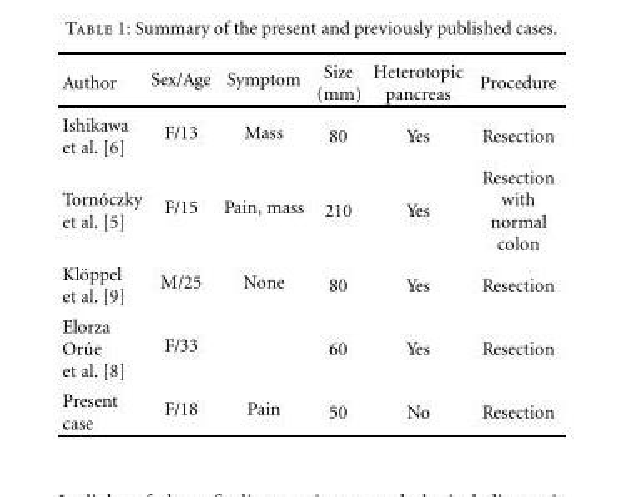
<table><thead><tr><td>Author</td><td>Sex/Age</td><td>Symptom</td><td>Size (mm)</td><td>Heterotopic pancreas</td><td>Procedure</td></tr></thead><tbody><tr><td>Ishikawa et al. [6]</td><td>F/13</td><td>Mass</td><td>80</td><td>Yes</td><td>Resection</td></tr><tr><td>Torn´oczky et al. [5]</td><td>F/15</td><td>Pain, mass</td><td>210</td><td>Yes</td><td>Resection with normal colon</td></tr><tr><td>Kl¨oppel et al. [9]</td><td>M/25</td><td>None</td><td>80</td><td>Yes</td><td>Resection</td></tr><tr><td>Elorza Or´ue et al. [8]</td><td>F/33</td><td></td><td>60</td><td>Yes</td><td>Resection</td></tr><tr><td>Present case</td><td>F/18</td><td>Pain</td><td>50</td><td>No</td><td>Resection</td></tr></tbody></table>